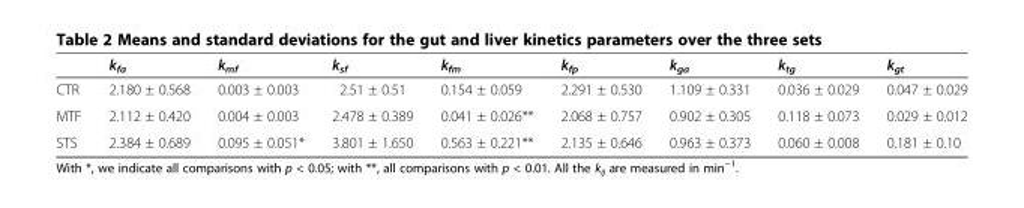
<table><thead><tr><td></td><td>k<sub>fa</sub></td><td>k<sub>mf</sub></td><td>k<sub>sf</sub></td><td>k<sub>fm</sub></td><td>k<sub>fp</sub></td><td>k<sub>ga</sub></td><td>k<sub>tg</sub></td><td>k<sub>gt</sub></td></tr></thead><tbody><tr><td>CTR</td><td>2.180 ± 0.568</td><td>0.003 ± 0.003</td><td>2.51 ± 0.51</td><td>0.154 ± 0.059</td><td>2.291 ± 0.530</td><td>1.109 ± 0.331</td><td>0.036 ± 0.029</td><td>0.047 ± 0.029</td></tr><tr><td>MTF</td><td>2.112 ± 0.420</td><td>0.004 ± 0.003</td><td>2.478 ± 0.389</td><td>0.041 ± 0.026**</td><td>2.068 ± 0.757</td><td>0.902 ± 0.305</td><td>0.118 ± 0.073</td><td>0.029 ± 0.012</td></tr><tr><td>STS</td><td>2.384 ± 0.689</td><td>0.095 ± 0.051*</td><td>3.801 ± 1.650</td><td>0.563 ± 0.221**</td><td>2.135 ± 0.646</td><td>0.963 ± 0.373</td><td>0.060 ± 0.008</td><td>0.181 ± 0.10</td></tr></tbody></table>